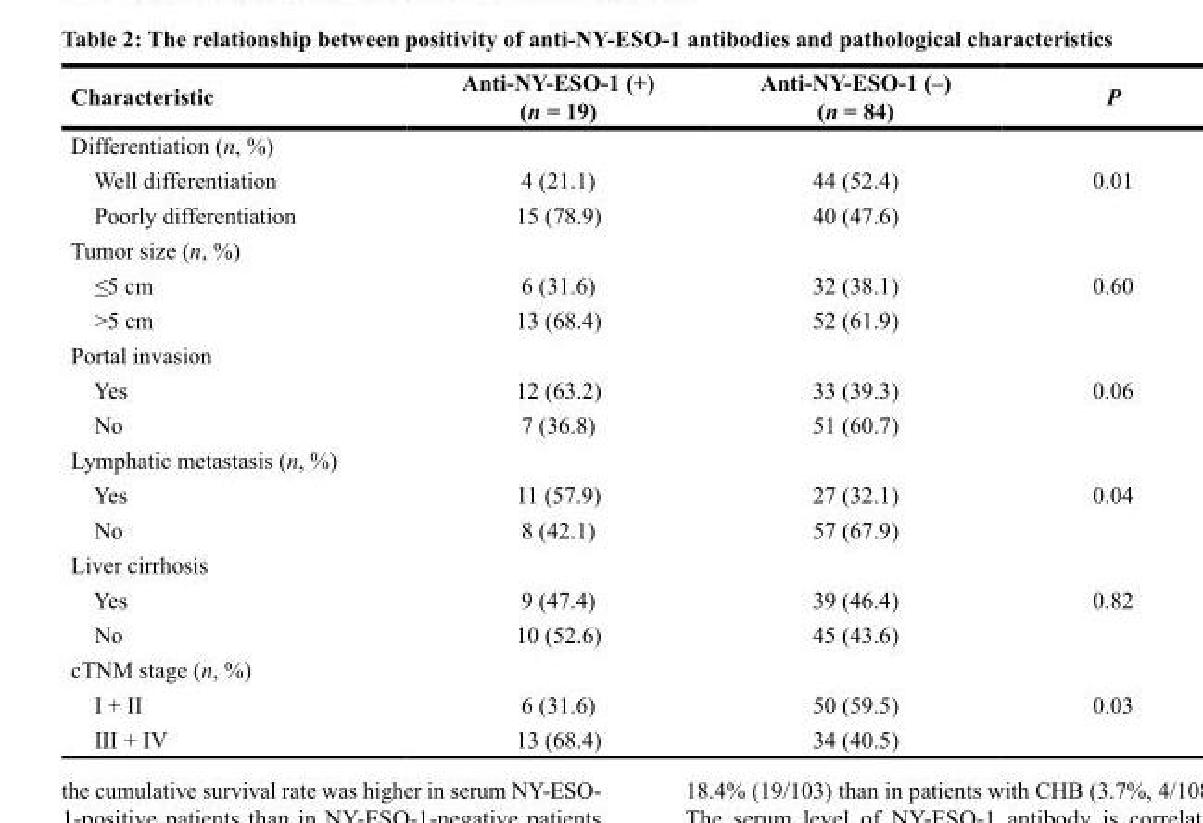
<table><thead><tr><td>Characteristic</td><td>Anti-NY-ESO-1 (+) (n = 19)</td><td>Anti-NY-ESO-1 (–) (n = 84)</td><td>P</td></tr></thead><tbody><tr><td colspan="4">Differentiation (n, %)</td></tr><tr><td>Well differentiation</td><td>4 (21.1)</td><td>44 (52.4)</td><td>0.01</td></tr><tr><td>Poorly differentiation</td><td>15 (78.9)</td><td>40 (47.6)</td><td></td></tr><tr><td colspan="4">Tumor size (n, %)</td></tr><tr><td>≤5 cm</td><td>6 (31.6)</td><td>32 (38.1)</td><td>0.60</td></tr><tr><td>&gt;5 cm</td><td>13 (68.4)</td><td>52 (61.9)</td><td></td></tr><tr><td colspan="4">Portal invasion</td></tr><tr><td>Yes</td><td>12 (63.2)</td><td>33 (39.3)</td><td>0.06</td></tr><tr><td>No</td><td>7 (36.8)</td><td>51 (60.7)</td><td></td></tr><tr><td colspan="4">Lymphatic metastasis (n, %)</td></tr><tr><td>Yes</td><td>11 (57.9)</td><td>27 (32.1)</td><td>0.04</td></tr><tr><td>No</td><td>8 (42.1)</td><td>57 (67.9)</td><td></td></tr><tr><td colspan="4">Liver cirrhosis</td></tr><tr><td>Yes</td><td>9 (47.4)</td><td>39 (46.4)</td><td>0.82</td></tr><tr><td>No</td><td>10 (52.6)</td><td>45 (43.6)</td><td></td></tr><tr><td colspan="4">cTNM stage (n, %)</td></tr><tr><td>I + II</td><td>6 (31.6)</td><td>50 (59.5)</td><td>0.03</td></tr><tr><td>III + IV</td><td>13 (68.4)</td><td>34 (40.5)</td><td></td></tr></tbody></table>